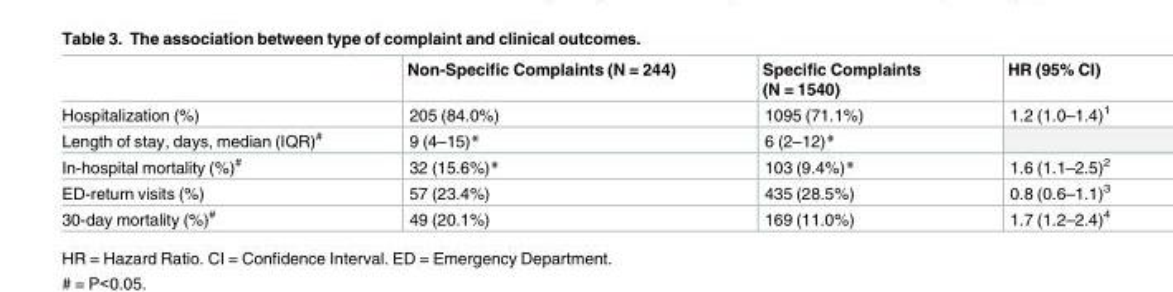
<table><thead><tr><td></td><td>Non-Specific Complaints (N = 244)</td><td>Specific Complaints (N = 1540)</td><td>HR (95% CI)</td></tr></thead><tbody><tr><td>Hospitalization (%)</td><td>205 (84.0%)</td><td>1095 (71.1%)</td><td>1.2 (1.0–1.4)<sup>1</sup></td></tr><tr><td>Length of stay, days, median (IQR)<sup>#</sup></td><td>9 (4–15)*</td><td>6 (2–12)*</td><td></td></tr><tr><td>In-hospital mortality (%)<sup>#</sup></td><td>32 (15.6%)*</td><td>103 (9.4%)*</td><td>1.6 (1.1–2.5)<sup>2</sup></td></tr><tr><td>ED-return visits (%)</td><td>57 (23.4%)</td><td>435 (28.5%)</td><td>0.8 (0.6–1.1)<sup>3</sup></td></tr><tr><td>30-day mortality (%)<sup>#</sup></td><td>49 (20.1%)</td><td>169 (11.0%)</td><td>1.7 (1.2–2.4)<sup>4</sup></td></tr></tbody></table>